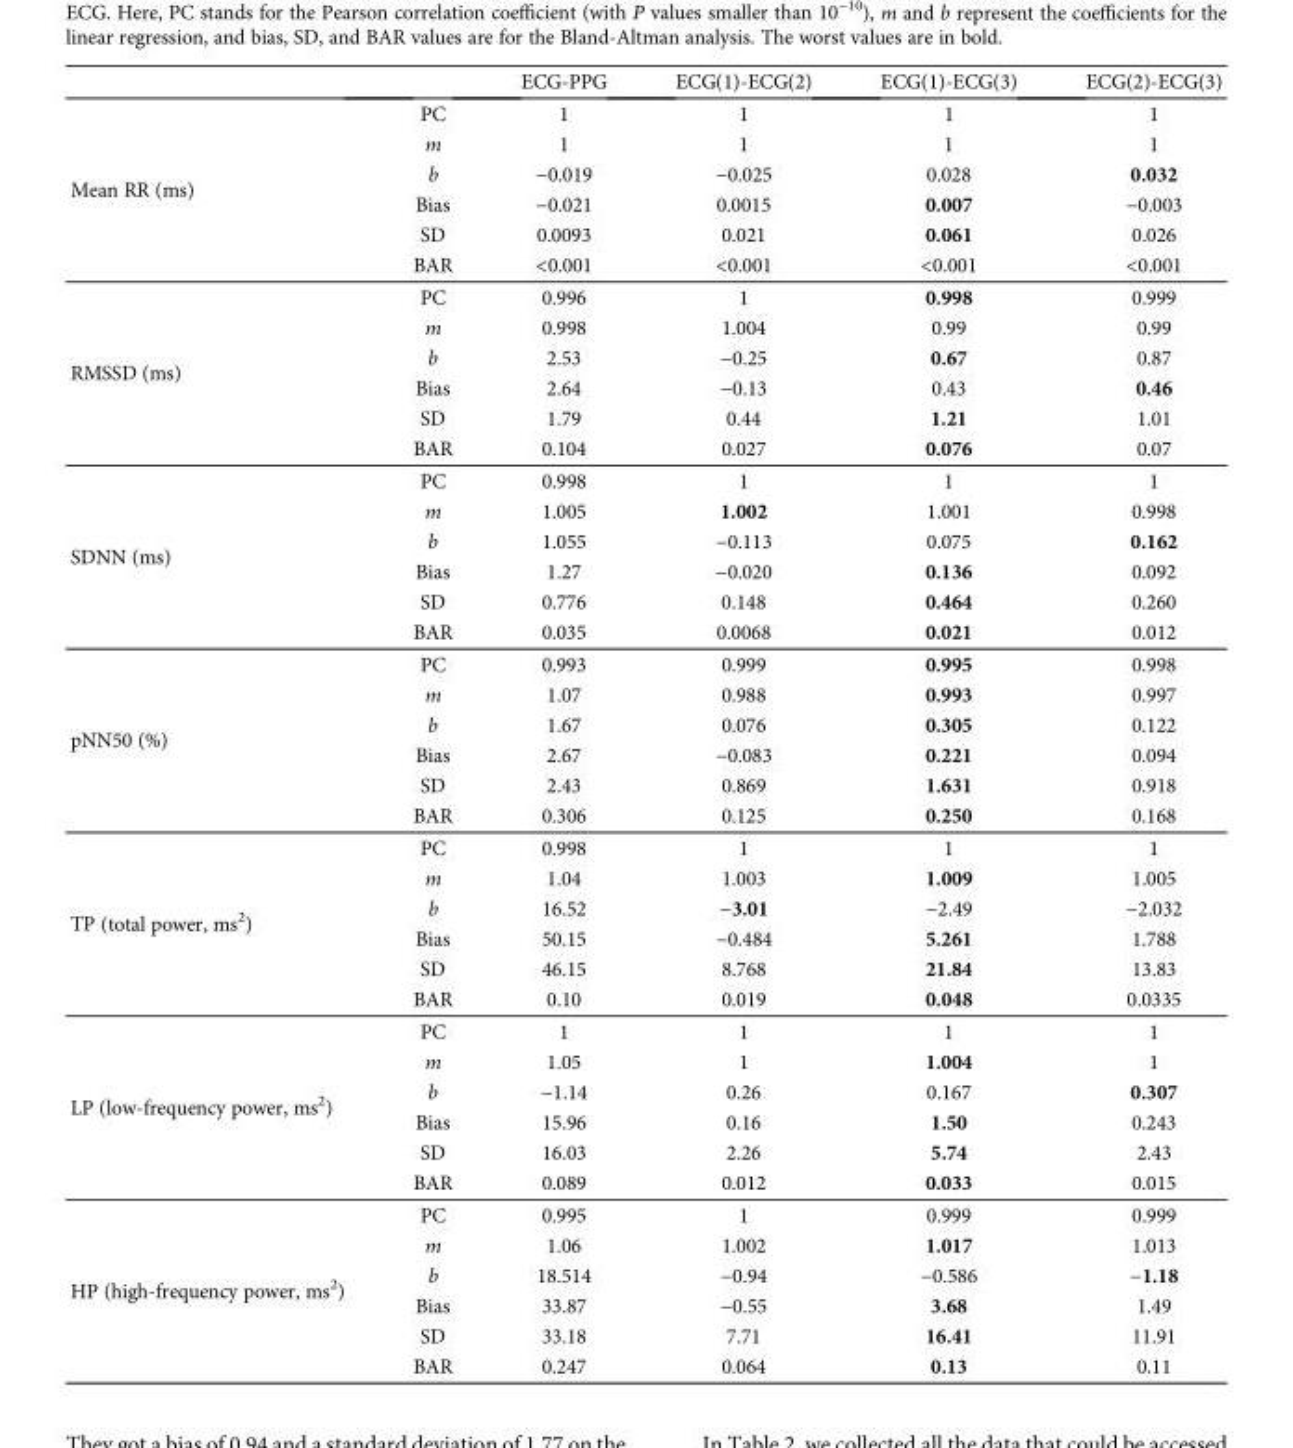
<table><thead><tr><td></td><td></td><td>ECG-PPG</td><td>ECG(1)-ECG(2)</td><td>ECG(1)-ECG(3)</td><td>ECG(2)-ECG(3)</td></tr></thead><tbody><tr><td rowspan="6">Mean RR (ms)</td><td>PC</td><td>1</td><td>1</td><td>1</td><td>1</td></tr><tr><td>m</td><td>1</td><td>1</td><td>1</td><td>1</td></tr><tr><td>b</td><td>−0.019</td><td>−0.025</td><td>0.028</td><td>0.032</td></tr><tr><td>Bias</td><td>−0.021</td><td>0.0015</td><td>0.007</td><td>−0.003</td></tr><tr><td>SD</td><td>0.0093</td><td>0.021</td><td>0.061</td><td>0.026</td></tr><tr><td>BAR</td><td>&lt;0.001</td><td>&lt;0.001</td><td>&lt;0.001</td><td>&lt;0.001</td></tr><tr><td rowspan="6">RMSSD (ms)</td><td>PC</td><td>0.996</td><td>1</td><td>0.998</td><td>0.999</td></tr><tr><td>m</td><td>0.998</td><td>1.004</td><td>0.99</td><td>0.99</td></tr><tr><td>b</td><td>2.53</td><td>−0.25</td><td>0.67</td><td>0.87</td></tr><tr><td>Bias</td><td>2.64</td><td>−0.13</td><td>0.43</td><td>0.46</td></tr><tr><td>SD</td><td>1.79</td><td>0.44</td><td>1.21</td><td>1.01</td></tr><tr><td>BAR</td><td>0.104</td><td>0.027</td><td>0.076</td><td>0.07</td></tr><tr><td rowspan="6">SDNN (ms)</td><td>PC</td><td>0.998</td><td>1</td><td>1</td><td>1</td></tr><tr><td>m</td><td>1.005</td><td>1.002</td><td>1.001</td><td>0.998</td></tr><tr><td>b</td><td>1.055</td><td>−0.113</td><td>0.075</td><td>0.162</td></tr><tr><td>Bias</td><td>1.27</td><td>−0.020</td><td>0.136</td><td>0.092</td></tr><tr><td>SD</td><td>0.776</td><td>0.148</td><td>0.464</td><td>0.260</td></tr><tr><td>BAR</td><td>0.035</td><td>0.0068</td><td>0.021</td><td>0.012</td></tr><tr><td rowspan="6">pNN50 (%)</td><td>PC</td><td>0.993</td><td>0.999</td><td>0.995</td><td>0.998</td></tr><tr><td>m</td><td>1.07</td><td>0.988</td><td>0.993</td><td>0.997</td></tr><tr><td>b</td><td>1.67</td><td>0.076</td><td>0.305</td><td>0.122</td></tr><tr><td>Bias</td><td>2.67</td><td>−0.083</td><td>0.221</td><td>0.094</td></tr><tr><td>SD</td><td>2.43</td><td>0.869</td><td>1.631</td><td>0.918</td></tr><tr><td>BAR</td><td>0.306</td><td>0.125</td><td>0.250</td><td>0.168</td></tr><tr><td rowspan="6">TP (total power, ms2)</td><td>PC</td><td>0.998</td><td>1</td><td>1</td><td>1</td></tr><tr><td>m</td><td>1.04</td><td>1.003</td><td>1.009</td><td>1.005</td></tr><tr><td>b</td><td>16.52</td><td>−3.01</td><td>−2.49</td><td>−2.032</td></tr><tr><td>Bias</td><td>50.15</td><td>−0.484</td><td>5.261</td><td>1.788</td></tr><tr><td>SD</td><td>46.15</td><td>8.768</td><td>21.84</td><td>13.83</td></tr><tr><td>BAR</td><td>0.10</td><td>0.019</td><td>0.048</td><td>0.0335</td></tr><tr><td rowspan="6">LP (low-frequency power, ms2)</td><td>PC</td><td>1</td><td>1</td><td>1</td><td>1</td></tr><tr><td>m</td><td>1.05</td><td>1</td><td>1.004</td><td>1</td></tr><tr><td>b</td><td>−1.14</td><td>0.26</td><td>0.167</td><td>0.307</td></tr><tr><td>Bias</td><td>15.96</td><td>0.16</td><td>1.50</td><td>0.243</td></tr><tr><td>SD</td><td>16.03</td><td>2.26</td><td>5.74</td><td>2.43</td></tr><tr><td>BAR</td><td>0.089</td><td>0.012</td><td>0.033</td><td>0.015</td></tr><tr><td rowspan="6">HP (high-frequency power, ms2)</td><td>PC</td><td>0.995</td><td>1</td><td>0.999</td><td>0.999</td></tr><tr><td>m</td><td>1.06</td><td>1.002</td><td>1.017</td><td>1.013</td></tr><tr><td>b</td><td>18.514</td><td>−0.94</td><td>−0.586</td><td>−1.18</td></tr><tr><td>Bias</td><td>33.87</td><td>−0.55</td><td>3.68</td><td>1.49</td></tr><tr><td>SD</td><td>33.18</td><td>7.71</td><td>16.41</td><td>11.91</td></tr><tr><td>BAR</td><td>0.247</td><td>0.064</td><td>0.13</td><td>0.11</td></tr></tbody></table>